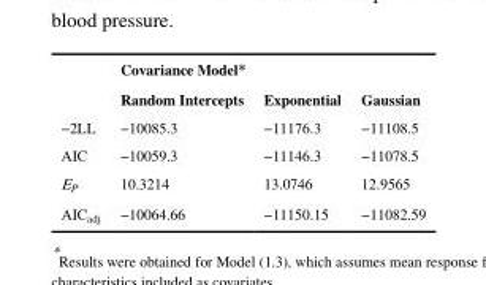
<table><thead><tr><td rowspan="2"></td><td colspan="3">Covariance Model<sub>*</sub></td></tr><tr><td>Random Intercepts</td><td>Exponential</td><td>Gaussian</td></tr></thead><tbody><tr><td>−2LL</td><td>−10085.3</td><td>−11176.3</td><td>−11108.5</td></tr><tr><td>AIC</td><td>−10059.3</td><td>−11146.3</td><td>−11078.5</td></tr><tr><td>E<sub>P</sub></td><td>10.3214</td><td>13.0746</td><td>12.9565</td></tr><tr><td>AIC<sub>adj</sub></td><td>−10064.66</td><td>−11150.15</td><td>−11082.59</td></tr></tbody></table>